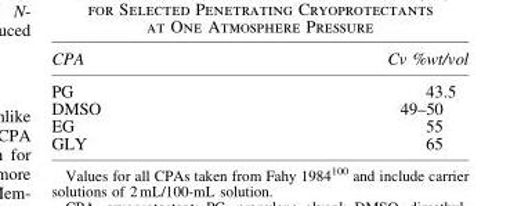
<table><thead><tr><td>CPA</td><td>Cv %wt/vol</td></tr></thead><tbody><tr><td>PG</td><td>43.5</td></tr><tr><td>DMSO</td><td>49–50</td></tr><tr><td>EG</td><td>55</td></tr><tr><td>GLY</td><td>65</td></tr></tbody></table>